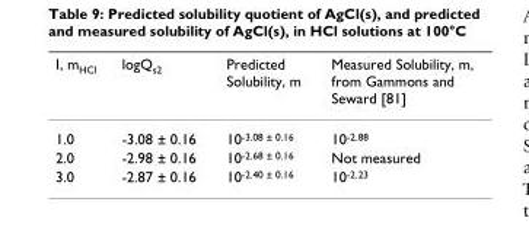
<table><thead><tr><td>I, m<sub>HCl</sub></td><td>logQ<sub>s2</sub></td><td>Predicted Solubility, m</td><td>Measured Solubility, m, from Gammons and Seward [81]</td></tr></thead><tbody><tr><td>1.0</td><td>-3.08 ± 0.16</td><td>10<sup>-3.08 ± 0.16</sup></td><td>10<sup>-2.88</sup></td></tr><tr><td>2.0</td><td>-2.98 ± 0.16</td><td>10<sup>-2.68 ± 0.16</sup></td><td>Not measured</td></tr><tr><td>3.0</td><td>-2.87 ± 0.16</td><td>10<sup>-2.40 ± 0.16</sup></td><td>10<sup>-2.23</sup></td></tr></tbody></table>